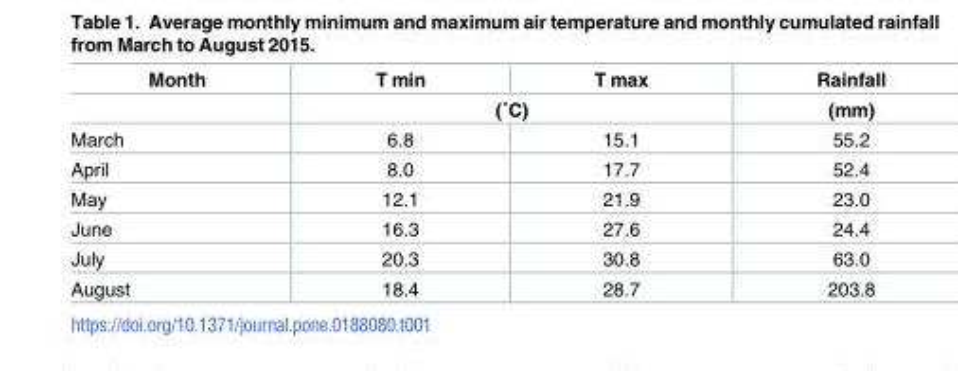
<table><thead><tr><td rowspan="2">Month</td><td>T min</td><td>T max</td><td rowspan="2">Rainfall (mm)</td></tr><tr><td colspan="2">(˚C)</td></tr></thead><tbody><tr><td>March</td><td>6.8</td><td>15.1</td><td>55.2</td></tr><tr><td>April</td><td>8.0</td><td>17.7</td><td>52.4</td></tr><tr><td>May</td><td>12.1</td><td>21.9</td><td>23.0</td></tr><tr><td>June</td><td>16.3</td><td>27.6</td><td>24.4</td></tr><tr><td>July</td><td>20.3</td><td>30.8</td><td>63.0</td></tr><tr><td>August</td><td>18.4</td><td>28.7</td><td>203.8</td></tr></tbody></table>